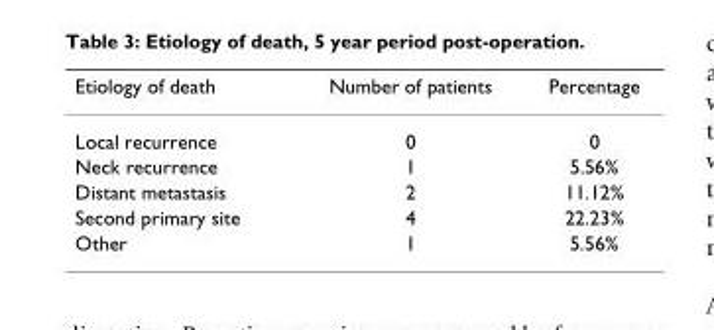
<table><thead><tr><td>Etiology of death</td><td>Number of patients</td><td>Percentage</td></tr></thead><tbody><tr><td>Local recurrence</td><td>0</td><td>0</td></tr><tr><td>Neck recurrence</td><td>1</td><td>5.56%</td></tr><tr><td>Distant metastasis</td><td>2</td><td>11.12%</td></tr><tr><td>Second primary site</td><td>4</td><td>22.23%</td></tr><tr><td>Other</td><td>1</td><td>5.56%</td></tr></tbody></table>